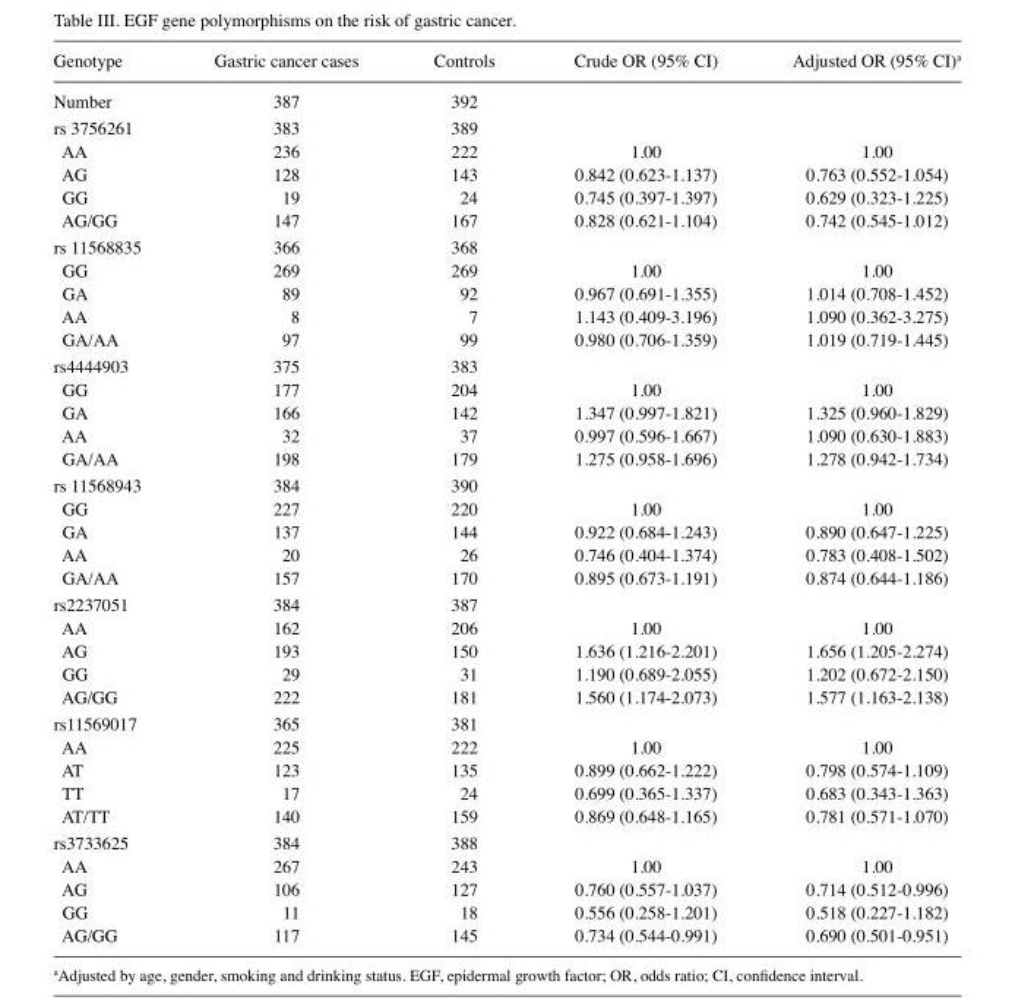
<table><thead><tr><td>Genotype</td><td>Gastric cancer cases</td><td>Controls</td><td>Crude OR (95% CI)</td><td>Adjusted OR (95% CI)<sup>a</sup></td></tr></thead><tbody><tr><td>Number</td><td>387</td><td>392</td><td></td><td></td></tr><tr><td>rs 3756261</td><td>383</td><td>389</td><td></td><td></td></tr><tr><td>AA</td><td>236</td><td>222</td><td>1.00</td><td>1.00</td></tr><tr><td>AG</td><td>128</td><td>143</td><td>0.842 (0.623-1.137)</td><td>0.763 (0.552-1.054)</td></tr><tr><td>GG</td><td>19</td><td>24</td><td>0.745 (0.397-1.397)</td><td>0.629 (0.323-1.225)</td></tr><tr><td>AG/GG</td><td>147</td><td>167</td><td>0.828 (0.621-1.104)</td><td>0.742 (0.545-1.012)</td></tr><tr><td>rs 11568835</td><td>366</td><td>368</td><td></td><td></td></tr><tr><td>GG</td><td>269</td><td>269</td><td>1.00</td><td>1.00</td></tr><tr><td>GA</td><td>89</td><td>92</td><td>0.967 (0.691-1.355)</td><td>1.014 (0.708-1.452)</td></tr><tr><td>AA</td><td>8</td><td>7</td><td>1.143 (0.409-3.196)</td><td>1.090 (0.362-3.275)</td></tr><tr><td>GA/AA</td><td>97</td><td>99</td><td>0.980 (0.706-1.359)</td><td>1.019 (0.719-1.445)</td></tr><tr><td>rs4444903</td><td>375</td><td>383</td><td></td><td></td></tr><tr><td>GG</td><td>177</td><td>204</td><td>1.00</td><td>1.00</td></tr><tr><td>GA</td><td>166</td><td>142</td><td>1.347 (0.997-1.821)</td><td>1.325 (0.960-1.829)</td></tr><tr><td>AA</td><td>32</td><td>37</td><td>0.997 (0.596-1.667)</td><td>1.090 (0.630-1.883)</td></tr><tr><td>GA/AA</td><td>198</td><td>179</td><td>1.275 (0.958-1.696)</td><td>1.278 (0.942-1.734)</td></tr><tr><td>rs 11568943</td><td>384</td><td>390</td><td></td><td></td></tr><tr><td>GG</td><td>227</td><td>220</td><td>1.00</td><td>1.00</td></tr><tr><td>GA</td><td>137</td><td>144</td><td>0.922 (0.684-1.243)</td><td>0.890 (0.647-1.225)</td></tr><tr><td>AA</td><td>20</td><td>26</td><td>0.746 (0.404-1.374)</td><td>0.783 (0.408-1.502)</td></tr><tr><td>GA/AA</td><td>157</td><td>170</td><td>0.895 (0.673-1.191)</td><td>0.874 (0.644-1.186)</td></tr><tr><td>rs2237051</td><td>384</td><td>387</td><td></td><td></td></tr><tr><td>AA</td><td>162</td><td>206</td><td>1.00</td><td>1.00</td></tr><tr><td>AG</td><td>193</td><td>150</td><td>1.636 (1.216-2.201)</td><td>1.656 (1.205-2.274)</td></tr><tr><td>GG</td><td>29</td><td>31</td><td>1.190 (0.689-2.055)</td><td>1.202 (0.672-2.150)</td></tr><tr><td>AG/GG</td><td>222</td><td>181</td><td>1.560 (1.174-2.073)</td><td>1.577 (1.163-2.138)</td></tr><tr><td>rs11569017</td><td>365</td><td>381</td><td></td><td></td></tr><tr><td>AA</td><td>225</td><td>222</td><td>1.00</td><td>1.00</td></tr><tr><td>AT</td><td>123</td><td>135</td><td>0.899 (0.662-1.222)</td><td>0.798 (0.574-1.109)</td></tr><tr><td>TT</td><td>17</td><td>24</td><td>0.699 (0.365-1.337)</td><td>0.683 (0.343-1.363)</td></tr><tr><td>AT/TT</td><td>140</td><td>159</td><td>0.869 (0.648-1.165)</td><td>0.781 (0.571-1.070)</td></tr><tr><td>rs3733625</td><td>384</td><td>388</td><td></td><td></td></tr><tr><td>AA</td><td>267</td><td>243</td><td>1.00</td><td>1.00</td></tr><tr><td>AG</td><td>106</td><td>127</td><td>0.760 (0.557-1.037)</td><td>0.714 (0.512-0.996)</td></tr><tr><td>GG</td><td>11</td><td>18</td><td>0.556 (0.258-1.201)</td><td>0.518 (0.227-1.182)</td></tr><tr><td>AG/GG</td><td>117</td><td>145</td><td>0.734 (0.544-0.991)</td><td>0.690 (0.501-0.951)</td></tr></tbody></table>